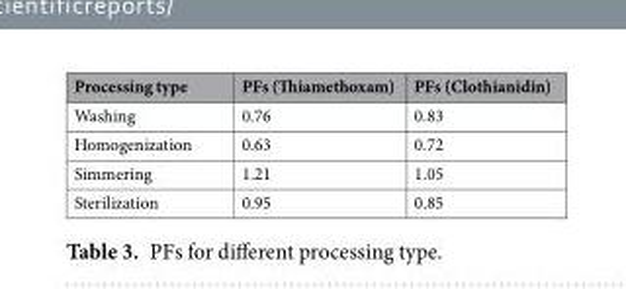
<table><thead><tr><td>Processing type</td><td>PFs (Thiamethoxam)</td><td>PFs (Clothianidin)</td></tr></thead><tbody><tr><td>Washing</td><td>0.76</td><td>0.83</td></tr><tr><td>Homogenization</td><td>0.63</td><td>0.72</td></tr><tr><td>Simmering</td><td>1.21</td><td>1.05</td></tr><tr><td>Sterilization</td><td>0.95</td><td>0.85</td></tr></tbody></table>